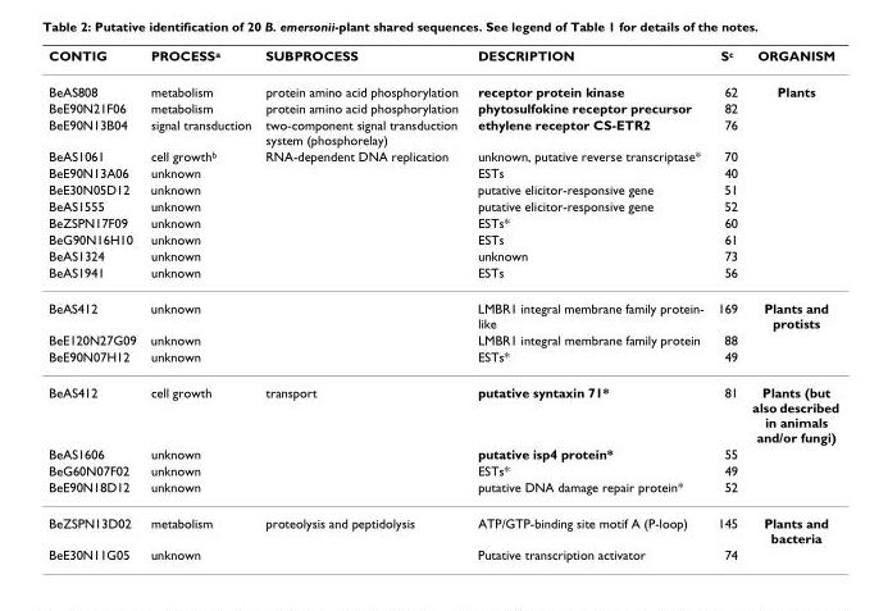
<table><thead><tr><td>CONTIG</td><td>PROCESSa</td><td>SUBPROCESS</td><td>DESCRIPTION</td><td>Sc</td><td>ORGANISM</td></tr></thead><tbody><tr><td>BeAS808</td><td>metabolism</td><td>protein amino acid phosphorylation</td><td>receptor protein kinase</td><td>62</td><td>Plants</td></tr><tr><td>BeE90N21F06</td><td>metabolism</td><td>protein amino acid phosphorylation</td><td>phytosulfokine receptor precursor</td><td>82</td><td></td></tr><tr><td>BeE90N13B04</td><td>signal transduction</td><td>two-component signal transduction system (phosphorelay)</td><td>ethylene receptor CS-ETR2</td><td>76</td><td></td></tr><tr><td>BeAS1061</td><td>cell growthb</td><td>RNA-dependent DNA replication</td><td>unknown, putative reverse transcriptase*</td><td>70</td><td></td></tr><tr><td>BeE90N13A06</td><td>unknown</td><td></td><td>ESTs</td><td>40</td><td></td></tr><tr><td>BeE30N05D12</td><td>unknown</td><td></td><td>putative elicitor-responsive gene</td><td>51</td><td></td></tr><tr><td>BeAS1555</td><td>unknown</td><td></td><td>putative elicitor-responsive gene</td><td>52</td><td></td></tr><tr><td>BeZSPN17F09</td><td>unknown</td><td></td><td>ESTs*</td><td>60</td><td></td></tr><tr><td>BeG90N16H10</td><td>unknown</td><td></td><td>ESTs</td><td>61</td><td></td></tr><tr><td>BeAS1324</td><td>unknown</td><td></td><td>unknown</td><td>73</td><td></td></tr><tr><td>BeAS1941</td><td>unknown</td><td></td><td>ESTs</td><td>56</td><td></td></tr><tr><td>BeAS412</td><td>unknown</td><td></td><td>LMBR1 integral membrane family protein- like</td><td>169</td><td>Plants and protists</td></tr><tr><td>BeE120N27G09</td><td>unknown</td><td></td><td>LMBR1 integral membrane family protein</td><td>88</td><td></td></tr><tr><td>BeE90N07H12</td><td>unknown</td><td></td><td>ESTs*</td><td>49</td><td></td></tr><tr><td>BeAS412</td><td>cell growth</td><td>transport</td><td>putative syntaxin 71*</td><td>81</td><td>Plants (but also described in animals and/or fungi)</td></tr><tr><td>BeAS1606</td><td>unknown</td><td></td><td>putative isp4 protein*</td><td>55</td><td></td></tr><tr><td>BeG60N07F02</td><td>unknown</td><td></td><td>ESTs*</td><td>49</td><td></td></tr><tr><td>BeE90N18D12</td><td>unknown</td><td></td><td>putative DNA damage repair protein*</td><td>52</td><td></td></tr><tr><td>BeZSPN13D02</td><td>metabolism</td><td>proteolysis and peptidolysis</td><td>ATP/GTP-binding site motif A (P-loop)</td><td>145</td><td>Plants and bacteria</td></tr><tr><td>BeE30N11G05</td><td>unknown</td><td></td><td>Putative transcription activator</td><td>74</td><td></td></tr></tbody></table>